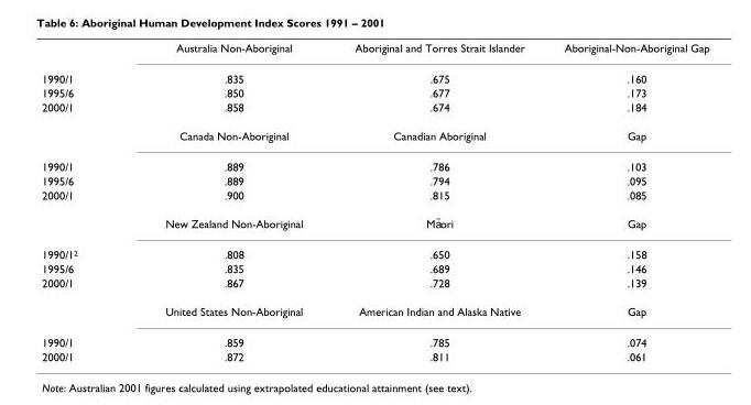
<table><thead><tr><td></td><td>Australia Non-Aboriginal</td><td>Aboriginal and Torres Strait Islander</td><td>Aboriginal-Non-Aboriginal Gap</td></tr></thead><tbody><tr><td>1990/1</td><td>.835</td><td>.675</td><td>.160</td></tr><tr><td>1995/6</td><td>.850</td><td>.677</td><td>.173</td></tr><tr><td rowspan="2">2000/1</td><td>.858</td><td>.674</td><td>.184</td></tr><tr><td>Canada Non-Aboriginal</td><td>Canadian Aboriginal</td><td>Gap</td></tr><tr><td>1990/1</td><td>.889</td><td>.786</td><td>.103</td></tr><tr><td>1995/6</td><td>.889</td><td>.794</td><td>.095</td></tr><tr><td rowspan="2">2000/1</td><td>.900</td><td>.815</td><td>.085</td></tr><tr><td>New Zealand Non-Aboriginal</td><td>Ma¯ori</td><td>Gap</td></tr><tr><td>1990/1<sup>2</sup></td><td>.808</td><td>.650</td><td>.158</td></tr><tr><td>1995/6</td><td>.835</td><td>.689</td><td>.146</td></tr><tr><td rowspan="2">2000/1</td><td>.867</td><td>.728</td><td>.139</td></tr><tr><td>United States Non-Aboriginal</td><td>American Indian and Alaska Native</td><td>Gap</td></tr><tr><td>1990/1</td><td>.859</td><td>.785</td><td>.074</td></tr><tr><td>2000/1</td><td>.872</td><td>.811</td><td>.061</td></tr></tbody></table>